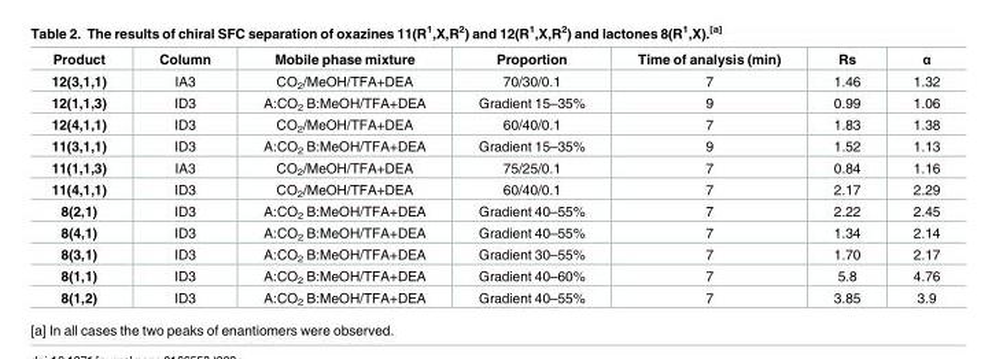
<table><thead><tr><td>Product</td><td>Column</td><td>Mobile phase mixture</td><td>Proportion</td><td>Time of analysis (min)</td><td>Rs</td><td>α</td></tr></thead><tbody><tr><td>12(3,1,1)</td><td>IA3</td><td>CO<sub>2</sub>/MeOH/TFA+DEA</td><td>70/30/0.1</td><td>7</td><td>1.46</td><td>1.32</td></tr><tr><td>12(1,1,3)</td><td>ID3</td><td>A:CO<sub>2</sub> B:MeOH/TFA+DEA</td><td>Gradient 15–35%</td><td>9</td><td>0.99</td><td>1.06</td></tr><tr><td>12(4,1,1)</td><td>ID3</td><td>CO<sub>2</sub>/MeOH/TFA+DEA</td><td>60/40/0.1</td><td>7</td><td>1.83</td><td>1.38</td></tr><tr><td>11(3,1,1)</td><td>ID3</td><td>A:CO<sub>2</sub> B:MeOH/TFA+DEA</td><td>Gradient 15–35%</td><td>9</td><td>1.52</td><td>1.13</td></tr><tr><td>11(1,1,3)</td><td>IA3</td><td>CO<sub>2</sub>/MeOH/TFA+DEA</td><td>75/25/0.1</td><td>7</td><td>0.84</td><td>1.16</td></tr><tr><td>11(4,1,1)</td><td>ID3</td><td>CO<sub>2</sub>/MeOH/TFA+DEA</td><td>60/40/0.1</td><td>7</td><td>2.17</td><td>2.29</td></tr><tr><td>8(2,1)</td><td>ID3</td><td>A:CO<sub>2</sub> B:MeOH/TFA+DEA</td><td>Gradient 40–55%</td><td>7</td><td>2.22</td><td>2.45</td></tr><tr><td>8(4,1)</td><td>ID3</td><td>A:CO<sub>2</sub> B:MeOH/TFA+DEA</td><td>Gradient 40–55%</td><td>7</td><td>1.34</td><td>2.14</td></tr><tr><td>8(3,1)</td><td>ID3</td><td>A:CO<sub>2</sub> B:MeOH/TFA+DEA</td><td>Gradient 30–55%</td><td>7</td><td>1.70</td><td>2.17</td></tr><tr><td>8(1,1)</td><td>ID3</td><td>A:CO<sub>2</sub> B:MeOH/TFA+DEA</td><td>Gradient 40–60%</td><td>7</td><td>5.8</td><td>4.76</td></tr><tr><td>8(1,2)</td><td>ID3</td><td>A:CO<sub>2</sub> B:MeOH/TFA+DEA</td><td>Gradient 40–55%</td><td>7</td><td>3.85</td><td>3.9</td></tr></tbody></table>